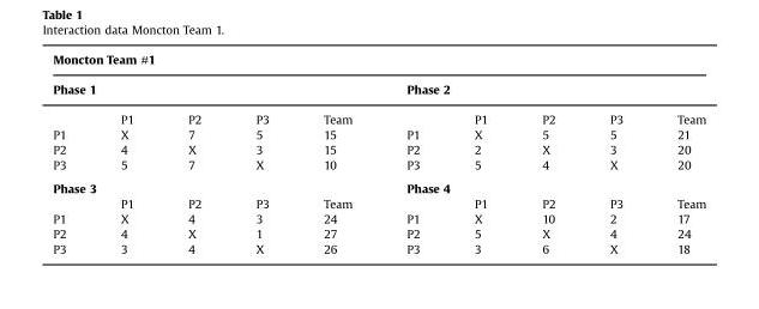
<table><thead><tr><td colspan="10">Moncton Team #1</td></tr><tr><td colspan="5">Phase 1</td><td colspan="5">Phase 2</td></tr><tr><td></td><td>P1</td><td>P2</td><td>P3</td><td>Team</td><td></td><td>P1</td><td>P2</td><td>P3</td><td>Team</td></tr></thead><tbody><tr><td>P1</td><td>X</td><td>7</td><td>5</td><td>15</td><td>P1</td><td>X</td><td>5</td><td>5</td><td>21</td></tr><tr><td>P2</td><td>4</td><td>X</td><td>3</td><td>15</td><td>P2</td><td>2</td><td>X</td><td>3</td><td>20</td></tr><tr><td>P3</td><td>5</td><td>7</td><td>X</td><td>10</td><td>P3</td><td>5</td><td>4</td><td>X</td><td>20</td></tr><tr><td colspan="5">Phase 3</td><td colspan="5">Phase 4</td></tr><tr><td></td><td>P1</td><td>P2</td><td>P3</td><td>Team</td><td></td><td>P1</td><td>P2</td><td>P3</td><td>Team</td></tr><tr><td>P1</td><td>X</td><td>4</td><td>3</td><td>24</td><td>P1</td><td>X</td><td>10</td><td>2</td><td>17</td></tr><tr><td>P2</td><td>4</td><td>X</td><td>1</td><td>27</td><td>P2</td><td>5</td><td>X</td><td>4</td><td>24</td></tr><tr><td>P3</td><td>3</td><td>4</td><td>X</td><td>26</td><td>P3</td><td>3</td><td>6</td><td>X</td><td>18</td></tr></tbody></table>